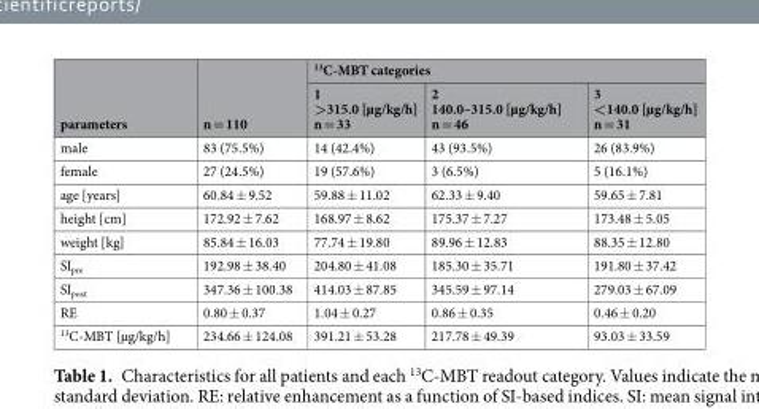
<table><thead><tr><td rowspan="2">parameters</td><td rowspan="2">n = 110</td><td colspan="3"><sup>13</sup>C-MBT categories</td></tr><tr><td>1 &gt;315.0 [µg/kg/h] n = 33</td><td>2 140.0–315.0 [µg/kg/h] n = 46</td><td>3 &lt;140.0 [µg/kg/h] n = 31</td></tr></thead><tbody><tr><td>male</td><td>83 (75.5%)</td><td>14 (42.4%)</td><td>43 (93.5%)</td><td>26 (83.9%)</td></tr><tr><td>female</td><td>27 (24.5%)</td><td>19 (57.6%)</td><td>3 (6.5%)</td><td>5 (16.1%)</td></tr><tr><td>age [years]</td><td>60.84 ± 9.52</td><td>59.88 ± 11.02</td><td>62.33 ± 9.40</td><td>59.65 ± 7.81</td></tr><tr><td>height [cm]</td><td>172.92 ± 7.62</td><td>168.97 ± 8.62</td><td>175.37 ± 7.27</td><td>173.48 ± 5.05</td></tr><tr><td>weight [kg]</td><td>85.84 ± 16.03</td><td>77.74 ± 19.80</td><td>89.96 ± 12.83</td><td>88.35 ± 12.80</td></tr><tr><td>SI<sub>pre</sub></td><td>192.98 ± 38.40</td><td>204.80 ± 41.08</td><td>185.30 ± 35.71</td><td>191.80 ± 37.42</td></tr><tr><td>SI<sub>post</sub></td><td>347.36 ± 100.38</td><td>414.03 ± 87.85</td><td>345.59 ± 97.14</td><td>279.03 ± 67.09</td></tr><tr><td>RE</td><td>0.80 ± 0.37</td><td>1.04 ± 0.27</td><td>0.86 ± 0.35</td><td>0.46 ± 0.20</td></tr><tr><td><sup>13</sup>C-MBT [µg/kg/h]</td><td>234.66 ± 124.08</td><td>391.21 ± 53.28</td><td>217.78 ± 49.39</td><td>93.03 ± 33.59</td></tr></tbody></table>